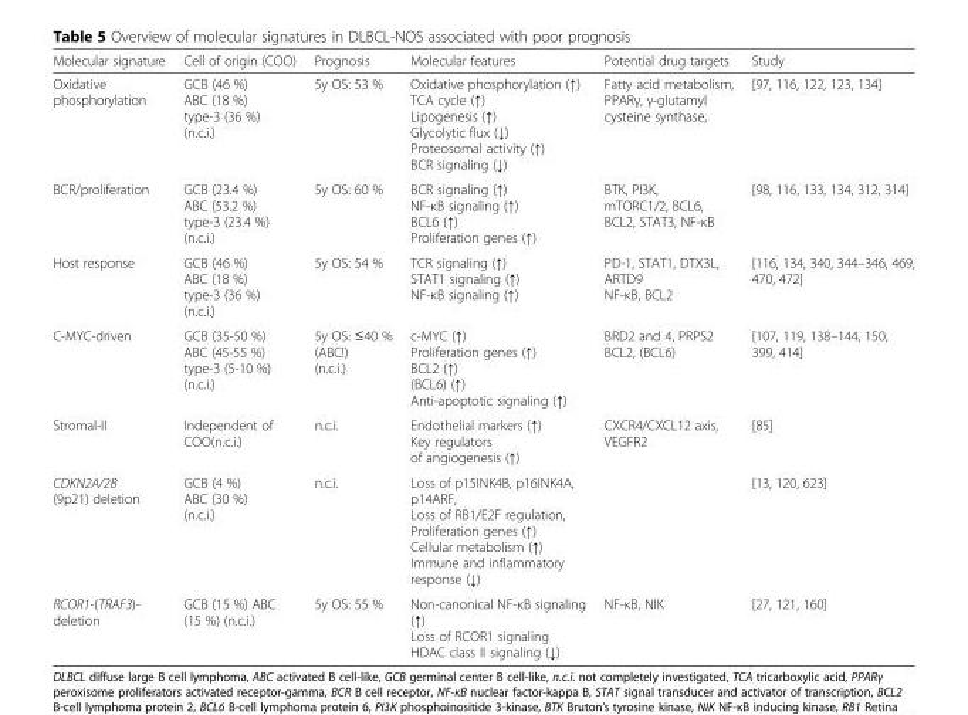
<table><thead><tr><td>Molecular signature</td><td>Cell of origin (COO)</td><td>Prognosis</td><td>Molecular features</td><td>Potential drug targets</td><td>Study</td></tr></thead><tbody><tr><td>Oxidative phosphorylation</td><td>GCB (46 %) ABC (18 %) type-3 (36 %) (n.c.i.)</td><td>5y OS: 53 %</td><td>Oxidative phosphorylation (↑) TCA cycle (↑) Lipogenesis (↑) Glycolytic flux (↓) Proteosomal activity (↑) BCR signaling (↓)</td><td>Fatty acid metabolism, PPARγ, γ-glutamyl cysteine synthase,</td><td>[97, 116, 122, 123, 134]</td></tr><tr><td>BCR/proliferation</td><td>GCB (23.4 %) ABC (53.2 %) type-3 (23.4 %) (n.c.i.)</td><td>5y OS: 60 %</td><td>BCR signaling (↑) NF-κB signaling (↑) BCL6 (↑) Proliferation genes (↑)</td><td>BTK, PI3K, mTORC1/2, BCL6, BCL2, STAT3, NF-κB</td><td>[98, 116, 133, 134, 312, 314]</td></tr><tr><td>Host response</td><td>GCB (46 %) ABC (18 %) type-3 (36 %) (n.c.i.)</td><td>5y OS: 54 %</td><td>TCR signaling (↑) STAT1 signaling (↑) NF-κB signaling (↑)</td><td>PD-1, STAT1, DTX3L, ARTD9 NF-κB, BCL2</td><td>[116, 134, 340, 344–346, 469, 470, 472]</td></tr><tr><td>C-MYC-driven</td><td>GCB (35-50 %) ABC (45-55 %) type-3 (5-10 %) (n.c.i.)</td><td>5y OS: ≤40 % (ABC!) (n.c.i.)</td><td>c-MYC (↑) Proliferation genes (↑) BCL2 (↑) (BCL6) (↑) Anti-apoptotic signaling (↑)</td><td>BRD2 and 4, PRPS2 BCL2, (BCL6)</td><td>[107, 119, 138–144, 150, 399, 414]</td></tr><tr><td>Stromal-II</td><td>Independent of COO(n.c.i.)</td><td>n.c.i.</td><td>Endothelial markers (↑) Key regulators of angiogenesis (↑)</td><td>CXCR4/CXCL12 axis, VEGFR2</td><td>[85]</td></tr><tr><td>CDKN2A/2B (9p21) deletion</td><td>GCB (4 %) ABC (30 %) (n.c.i.)</td><td>n.c.i.</td><td>Loss of p15INK4B, p16INK4A, p14ARF, Loss of RB1/E2F regulation, Proliferation genes (↑) Cellular metabolism (↑) Immune and inflammatory response (↓)</td><td></td><td>[13, 120, 623]</td></tr><tr><td>RCOR1-(TRAF3)- deletion</td><td>GCB (15 %) ABC (15 %) (n.c.i.)</td><td>5y OS: 55 %</td><td>Non-canonical NF-κB signaling (↑) Loss of RCOR1 signaling HDAC class II signaling (↓)</td><td>NF-κB, NIK</td><td>[27, 121, 160]</td></tr></tbody></table>